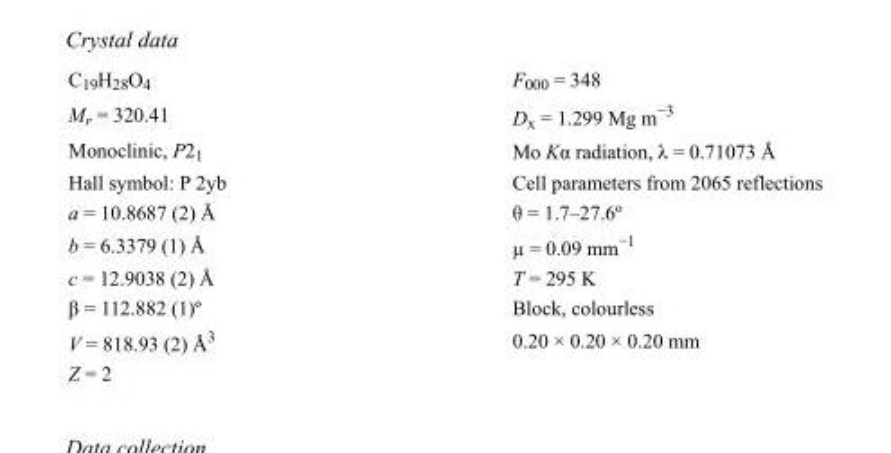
<table><tbody><tr><td>C<sub>19</sub>H<sub>28</sub>O<sub>4</sub></td><td>F000 = 348</td></tr><tr><td>M<sub>r</sub> = 320.41</td><td>D<sub>x</sub> = 1.299 Mg m<sup>−3</sup></td></tr><tr><td>Monoclinic, P2<sub>1</sub></td><td>Mo Kα radiation, λ = 0.71073 Å</td></tr><tr><td>Hall symbol: P 2yb</td><td>Cell parameters from 2065 reflections</td></tr><tr><td>a = 10.8687 (2) Å</td><td>θ = 1.7–27.6º</td></tr><tr><td>b = 6.3379 (1) Å</td><td>µ = 0.09 mm<sup>−1</sup></td></tr><tr><td>c = 12.9038 (2) Å</td><td>T = 295 K</td></tr><tr><td>β = 112.882 (1)º</td><td>Block, colourless</td></tr><tr><td>V = 818.93 (2) Å<sup>3</sup></td><td>0.20 × 0.20 × 0.20 mm</td></tr><tr><td>Z = 2</td><td></td></tr></tbody></table>